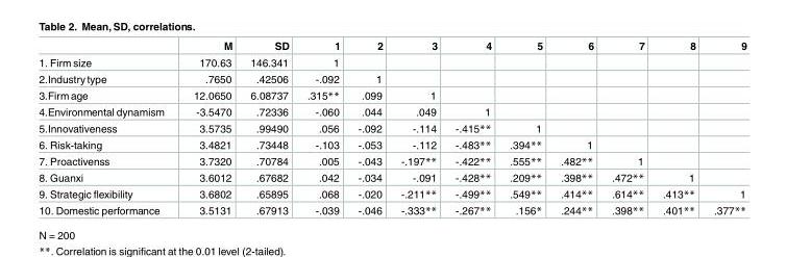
<table><thead><tr><td></td><td>M</td><td>SD</td><td>1</td><td>2</td><td>3</td><td>4</td><td>5</td><td>6</td><td>7</td><td>8</td><td>9</td></tr></thead><tbody><tr><td>1. Firm size</td><td>170.63</td><td>146.341</td><td>1</td><td></td><td></td><td></td><td></td><td></td><td></td><td></td><td></td></tr><tr><td>2.Industrytype</td><td>.7650</td><td>.42506</td><td>-.092</td><td>1</td><td></td><td></td><td></td><td></td><td></td><td></td><td></td></tr><tr><td>3.Firm age</td><td>12.0650</td><td>6.08737</td><td>.315**</td><td>.099</td><td>1</td><td></td><td></td><td></td><td></td><td></td><td></td></tr><tr><td>4.Environmental dynamism</td><td>-3.5470</td><td>.72336</td><td>-.060</td><td>.044</td><td>.049</td><td>1</td><td></td><td></td><td></td><td></td><td></td></tr><tr><td>5.Innovativeness</td><td>3.5735</td><td>.99490</td><td>.056</td><td>-.092</td><td>-.114</td><td>-.415**</td><td>1</td><td></td><td></td><td></td><td></td></tr><tr><td>6. Risk-taking</td><td>3.4821</td><td>.73448</td><td>-.103</td><td>-.053</td><td>-.112</td><td>-.483**</td><td>.394**</td><td>1</td><td></td><td></td><td></td></tr><tr><td>7. Proactivenss</td><td>3.7320</td><td>.70784</td><td>.005</td><td>-.043</td><td>-.197**</td><td>-.422**</td><td>.555**</td><td>.482**</td><td>1</td><td></td><td></td></tr><tr><td>8. Guanxi</td><td>3.6012</td><td>.67682</td><td>.042</td><td>-.034</td><td>-.091</td><td>-.428**</td><td>.209**</td><td>.398**</td><td>.472**</td><td>1</td><td></td></tr><tr><td>9. Strategic flexibility</td><td>3.6802</td><td>.65895</td><td>.068</td><td>-.020</td><td>-.211**</td><td>-.499**</td><td>.549**</td><td>.414**</td><td>.614**</td><td>.413**</td><td>1</td></tr><tr><td>10. Domestic performance</td><td>3.5131</td><td>.67913</td><td>-.039</td><td>-.046</td><td>-.333**</td><td>-.267**</td><td>.156*</td><td>.244**</td><td>.398**</td><td>.401**</td><td>.377**</td></tr></tbody></table>